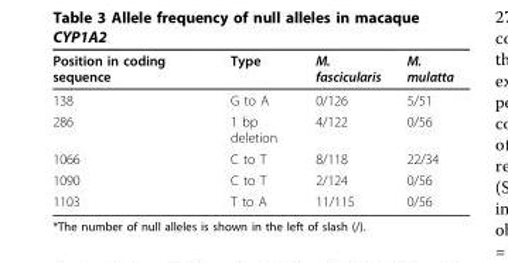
<table><thead><tr><td>Position in coding sequence</td><td>Type</td><td>M. fascicularis</td><td>M. mulatta</td></tr></thead><tbody><tr><td>138</td><td>G to A</td><td>0/126</td><td>5/51</td></tr><tr><td>286</td><td>1 bp deletion</td><td>4/122</td><td>0/56</td></tr><tr><td>1066</td><td>C to T</td><td>8/118</td><td>22/34</td></tr><tr><td>1090</td><td>C to T</td><td>2/124</td><td>0/56</td></tr><tr><td>1103</td><td>T to A</td><td>11/115</td><td>0/56</td></tr></tbody></table>